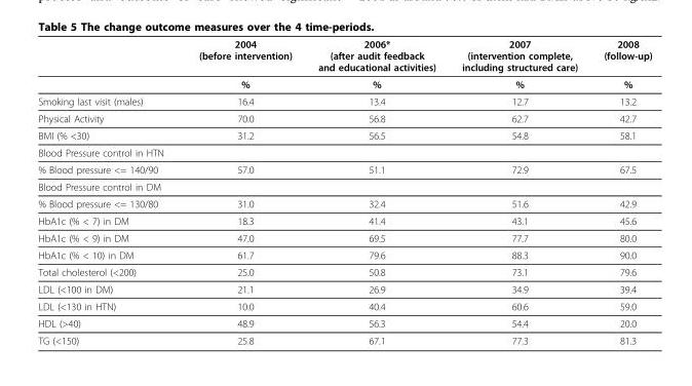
<table><thead><tr><td></td><td>2004 (before intervention)</td><td>2006* (after audit feedback and educational activities)</td><td>2007 (intervention complete, including structured care)</td><td>2008 (follow-up)</td></tr></thead><tbody><tr><td></td><td>%</td><td>%</td><td>%</td><td>%</td></tr><tr><td>Smoking last visit (males)</td><td>16.4</td><td>13.4</td><td>12.7</td><td>13.2</td></tr><tr><td>Physical Activity</td><td>70.0</td><td>56.8</td><td>62.7</td><td>42.7</td></tr><tr><td>BMI (% &lt;30)</td><td>31.2</td><td>56.5</td><td>54.8</td><td>58.1</td></tr><tr><td colspan="5">Blood Pressure control in HTN</td></tr><tr><td>% Blood pressure &lt;= 140/90</td><td>57.0</td><td>51.1</td><td>72.9</td><td>67.5</td></tr><tr><td colspan="5">Blood Pressure control in DM</td></tr><tr><td>% Blood pressure &lt;= 130/80</td><td>31.0</td><td>32.4</td><td>51.6</td><td>42.9</td></tr><tr><td>HbA1c (% &lt; 7) in DM</td><td>18.3</td><td>41.4</td><td>43.1</td><td>45.6</td></tr><tr><td>HbA1c (% &lt; 9) in DM</td><td>47.0</td><td>69.5</td><td>77.7</td><td>80.0</td></tr><tr><td>HbA1c (% &lt; 10) in DM</td><td>61.7</td><td>79.6</td><td>88.3</td><td>90.0</td></tr><tr><td>Total cholesterol (&lt;200)</td><td>25.0</td><td>50.8</td><td>73.1</td><td>79.6</td></tr><tr><td>LDL (&lt;100 in DM)</td><td>21.1</td><td>26.9</td><td>34.9</td><td>39.4</td></tr><tr><td>LDL (&lt;130 in HTN)</td><td>10.0</td><td>40.4</td><td>60.6</td><td>59.0</td></tr><tr><td>HDL (&gt;40)</td><td>48.9</td><td>56.3</td><td>54.4</td><td>20.0</td></tr><tr><td>TG (&lt;150)</td><td>25.8</td><td>67.1</td><td>77.3</td><td>81.3</td></tr></tbody></table>